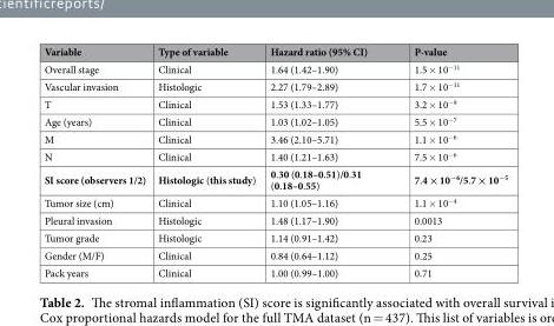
<table><thead><tr><td>Variable</td><td>Type of variable</td><td>Hazard ratio (95% CI)</td><td>P-value</td></tr></thead><tbody><tr><td>Overall stage</td><td>Clinical</td><td>1.64 (1.42–1.90)</td><td>1.5 × 10<sup>−11</sup></td></tr><tr><td>Vascular invasion</td><td>Histologic</td><td>2.27 (1.79–2.89)</td><td>1.7 × 10<sup>−11</sup></td></tr><tr><td>T</td><td>Clinical</td><td>1.53 (1.33–1.77)</td><td>3.2 × 10<sup>−9</sup></td></tr><tr><td>Age (years)</td><td>Clinical</td><td>1.03 (1.02–1.05)</td><td>5.5 × 10<sup>−7</sup></td></tr><tr><td>M</td><td>Clinical</td><td>3.46 (2.10–5.71)</td><td>1.1 × 10<sup>−6</sup></td></tr><tr><td>N</td><td>Clinical</td><td>1.40 (1.21–1.63)</td><td>7.5 × 10<sup>−6</sup></td></tr><tr><td>SI score (observers 1/2)</td><td>Histologic (this study)</td><td>0.30 (0.18–0.51)/0.31 (0.18–0.55)</td><td>7.4 × 10<sup>−6</sup>/5.7 × 10<sup>−5</sup></td></tr><tr><td>Tumor size (cm)</td><td>Clinical</td><td>1.10 (1.05–1.16)</td><td>1.1 × 10<sup>−4</sup></td></tr><tr><td>Pleural invasion</td><td>Histologic</td><td>1.48 (1.17–1.90)</td><td>0.0013</td></tr><tr><td>Tumor grade</td><td>Histologic</td><td>1.14 (0.91–1.42)</td><td>0.23</td></tr><tr><td>Gender (M/F)</td><td>Clinical</td><td>0.84 (0.64–1.12)</td><td>0.25</td></tr><tr><td>Pack years</td><td>Clinical</td><td>1.00 (0.99–1.00)</td><td>0.71</td></tr></tbody></table>